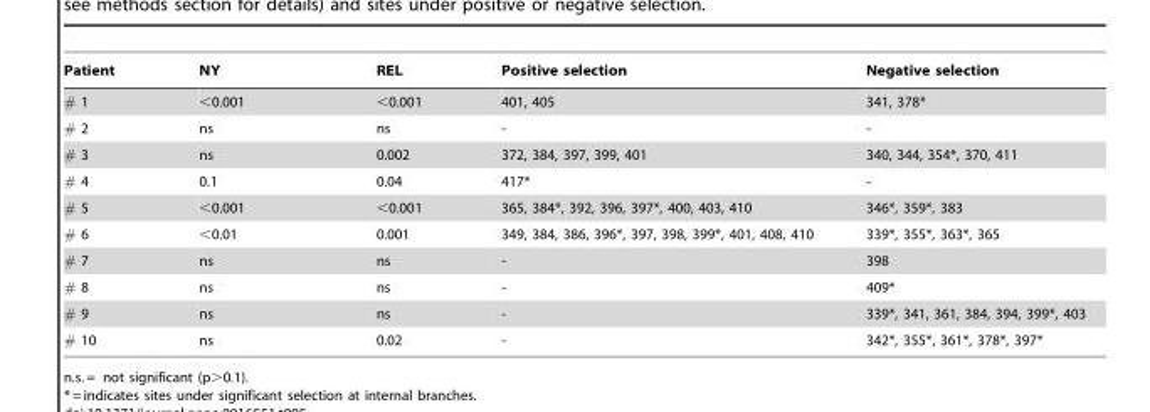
<table><thead><tr><td>Patient</td><td>NY</td><td>REL</td><td>Positive selection</td><td>Negative selection</td></tr></thead><tbody><tr><td># 1</td><td>&lt;0.001</td><td>&lt;0.001</td><td>401, 405</td><td>341, 378*</td></tr><tr><td># 2</td><td>ns</td><td>ns</td><td>-</td><td>-</td></tr><tr><td># 3</td><td>ns</td><td>0.002</td><td>372, 384, 397, 399, 401</td><td>340, 344, 354*, 370, 411</td></tr><tr><td># 4</td><td>0.1</td><td>0.04</td><td>417*</td><td>-</td></tr><tr><td># 5</td><td>&lt;0.001</td><td>&lt;0.001</td><td>365, 384*, 392, 396, 397*, 400, 403, 410</td><td>346*, 359*, 383</td></tr><tr><td># 6</td><td>&lt;0.01</td><td>0.001</td><td>349, 384, 386, 396*, 397, 398, 399*, 401, 408, 410</td><td>339*, 355*, 363*, 365</td></tr><tr><td># 7</td><td>ns</td><td>ns</td><td>-</td><td>398</td></tr><tr><td># 8</td><td>ns</td><td>ns</td><td>-</td><td>409*</td></tr><tr><td># 9</td><td>ns</td><td>ns</td><td>-</td><td>339*, 341, 361, 384, 394, 399*, 403</td></tr><tr><td># 10</td><td>ns</td><td>0.02</td><td>-</td><td>342*, 355*, 361*, 378*, 397*</td></tr></tbody></table>